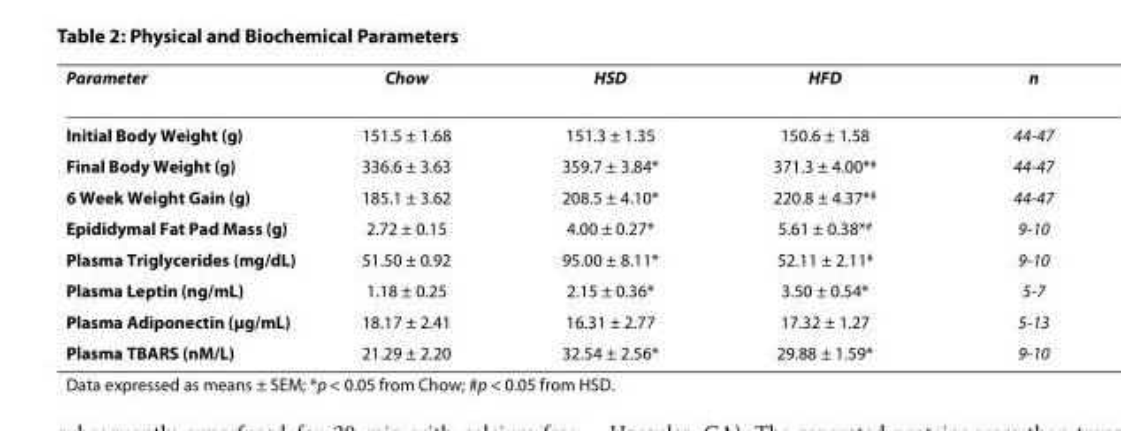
<table><thead><tr><td>Parameter</td><td>Chow</td><td>HSD</td><td>HFD</td><td>n</td></tr></thead><tbody><tr><td>Initial Body Weight (g)</td><td>151.5 ± 1.68</td><td>151.3 ± 1.35</td><td>150.6 ± 1.58</td><td>44-47</td></tr><tr><td>Final Body Weight (g)</td><td>336.6 ± 3.63</td><td>359.7 ± 3.84*</td><td>371.3 ± 4.00*<sup>#</sup></td><td>44-47</td></tr><tr><td>6 Week Weight Gain (g)</td><td>185.1 ± 3.62</td><td>208.5 ± 4.10*</td><td>220.8 ± 4.37*<sup>#</sup></td><td>44-47</td></tr><tr><td>Epididymal Fat Pad Mass (g)</td><td>2.72 ± 0.15</td><td>4.00 ± 0.27*</td><td>5.61 ± 0.38*<sup>#</sup></td><td>9-10</td></tr><tr><td>Plasma Triglycerides (mg/dL)</td><td>51.50 ± 0.92</td><td>95.00 ± 8.11*</td><td>52.11 ± 2.11<sup>#</sup></td><td>9-10</td></tr><tr><td>Plasma Leptin (ng/mL)</td><td>1.18 ± 0.25</td><td>2.15 ± 0.36*</td><td>3.50 ± 0.54*</td><td>5-7</td></tr><tr><td>Plasma Adiponectin (μg/mL)</td><td>18.17 ± 2.41</td><td>16.31 ± 2.77</td><td>17.32 ± 1.27</td><td>5-13</td></tr><tr><td>Plasma TBARS (nM/L)</td><td>21.29 ± 2.20</td><td>32.54 ± 2.56*</td><td>29.88 ± 1.59*</td><td>9-10</td></tr></tbody></table>